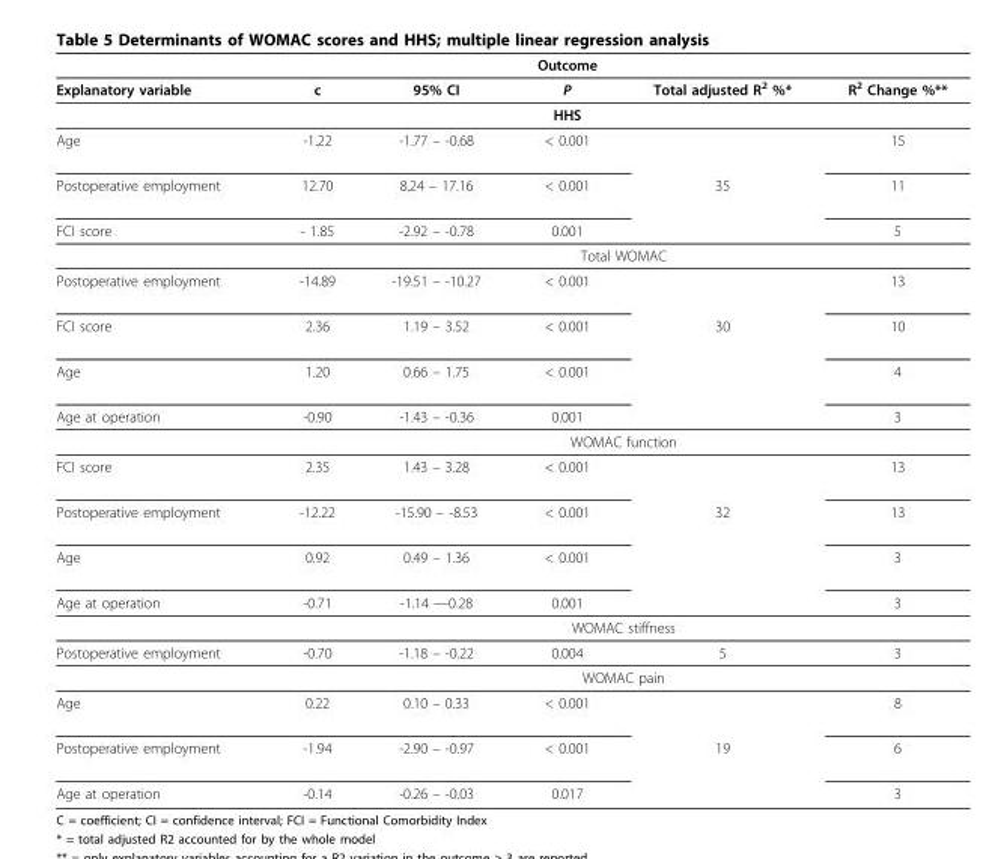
<table><thead><tr><td></td><td></td><td></td><td>Outcome</td><td></td><td></td></tr></thead><tbody><tr><td rowspan="2">Explanatory variable</td><td>c</td><td>95% CI</td><td>P</td><td>Total adjusted R<sup>2</sup> %*</td><td>R<sup>2</sup> Change %**</td></tr><tr><td></td><td></td><td>HHS</td><td></td><td></td></tr><tr><td>Age</td><td>-1.22</td><td>-1.77 – -0.68</td><td>&lt; 0.001</td><td></td><td>15</td></tr><tr><td>Postoperative employment</td><td>12.70</td><td>8.24 – 17.16</td><td>&lt; 0.001</td><td>35</td><td>11</td></tr><tr><td rowspan="2">FCI score</td><td>- 1.85</td><td>-2.92 – -0.78</td><td>0.001</td><td></td><td>5</td></tr><tr><td colspan="5">Total WOMAC</td></tr><tr><td>Postoperative employment</td><td>-14.89</td><td>-19.51 – -10.27</td><td>&lt; 0.001</td><td></td><td>13</td></tr><tr><td>FCI score</td><td>2.36</td><td>1.19 – 3.52</td><td>&lt; 0.001</td><td>30</td><td>10</td></tr><tr><td>Age</td><td>1.20</td><td>0.66 – 1.75</td><td>&lt; 0.001</td><td></td><td>4</td></tr><tr><td rowspan="2">Age at operation</td><td>-0.90</td><td>-1.43 – -0.36</td><td>0.001</td><td></td><td>3</td></tr><tr><td colspan="5">WOMAC function</td></tr><tr><td>FCI score</td><td>2.35</td><td>1.43 – 3.28</td><td>&lt; 0.001</td><td></td><td>13</td></tr><tr><td>Postoperative employment</td><td>-12.22</td><td>-15.90 – -8.53</td><td>&lt; 0.001</td><td>32</td><td>13</td></tr><tr><td>Age</td><td>0.92</td><td>0.49 – 1.36</td><td>&lt; 0.001</td><td></td><td>3</td></tr><tr><td rowspan="2">Age at operation</td><td>-0.71</td><td>-1.14 —0.28</td><td>0.001</td><td></td><td>3</td></tr><tr><td colspan="5">WOMAC stiffness</td></tr><tr><td rowspan="2">Postoperative employment</td><td>-0.70</td><td>-1.18 – -0.22</td><td>0.004</td><td>5</td><td>3</td></tr><tr><td colspan="5">WOMAC pain</td></tr><tr><td>Age</td><td>0.22</td><td>0.10 – 0.33</td><td>&lt; 0.001</td><td></td><td>8</td></tr><tr><td>Postoperative employment</td><td>-1.94</td><td>-2.90 – -0.97</td><td>&lt; 0.001</td><td>19</td><td>6</td></tr><tr><td>Age at operation</td><td>-0.14</td><td>-0.26 – -0.03</td><td>0.017</td><td></td><td>3</td></tr></tbody></table>